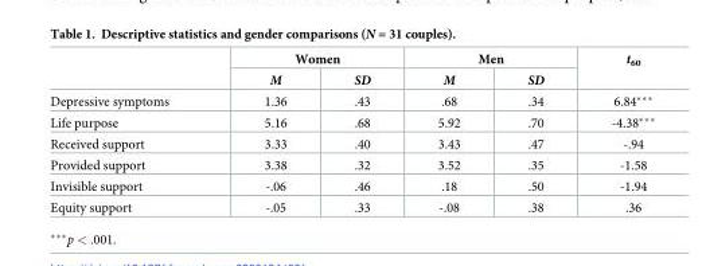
<table><thead><tr><td rowspan="2"></td><td colspan="2">Women</td><td colspan="2">Men</td><td rowspan="2">t<sub>60</sub></td></tr><tr><td>M</td><td>SD</td><td>M</td><td>SD</td></tr></thead><tbody><tr><td>Depressive symptoms</td><td>1.36</td><td>.43</td><td>.68</td><td>.34</td><td>6.84***</td></tr><tr><td>Life purpose</td><td>5.16</td><td>.68</td><td>5.92</td><td>.70</td><td>-4.38***</td></tr><tr><td>Received support</td><td>3.33</td><td>.40</td><td>3.43</td><td>.47</td><td>-.94</td></tr><tr><td>Provided support</td><td>3.38</td><td>.32</td><td>3.52</td><td>.35</td><td>-1.58</td></tr><tr><td>Invisible support</td><td>-.06</td><td>.46</td><td>.18</td><td>.50</td><td>-1.94</td></tr><tr><td>Equity support</td><td>-.05</td><td>.33</td><td>-.08</td><td>.38</td><td>.36</td></tr></tbody></table>